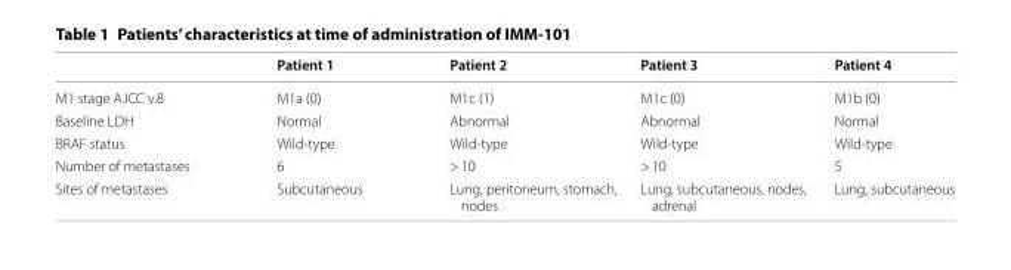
<table><thead><tr><td></td><td>Patient 1</td><td>Patient 2</td><td>Patient 3</td><td>Patient 4</td></tr></thead><tbody><tr><td>M1 stage AJCC v.8</td><td>M1a (0)</td><td>M1c (1)</td><td>M1c (0)</td><td>M1b (0)</td></tr><tr><td>Baseline LDH</td><td>Normal</td><td>Abnormal</td><td>Abnormal</td><td>Normal</td></tr><tr><td>BRAF status</td><td>Wild-type</td><td>Wild-type</td><td>Wild-type</td><td>Wild-type</td></tr><tr><td>Number of metastases</td><td>6</td><td>&gt; 10</td><td>&gt; 10</td><td>5</td></tr><tr><td>Sites of metastases</td><td>Subcutaneous</td><td>Lung, peritoneum, stomach, nodes</td><td>Lung, subcutaneous, nodes, adrenal</td><td>Lung, subcutaneous</td></tr></tbody></table>